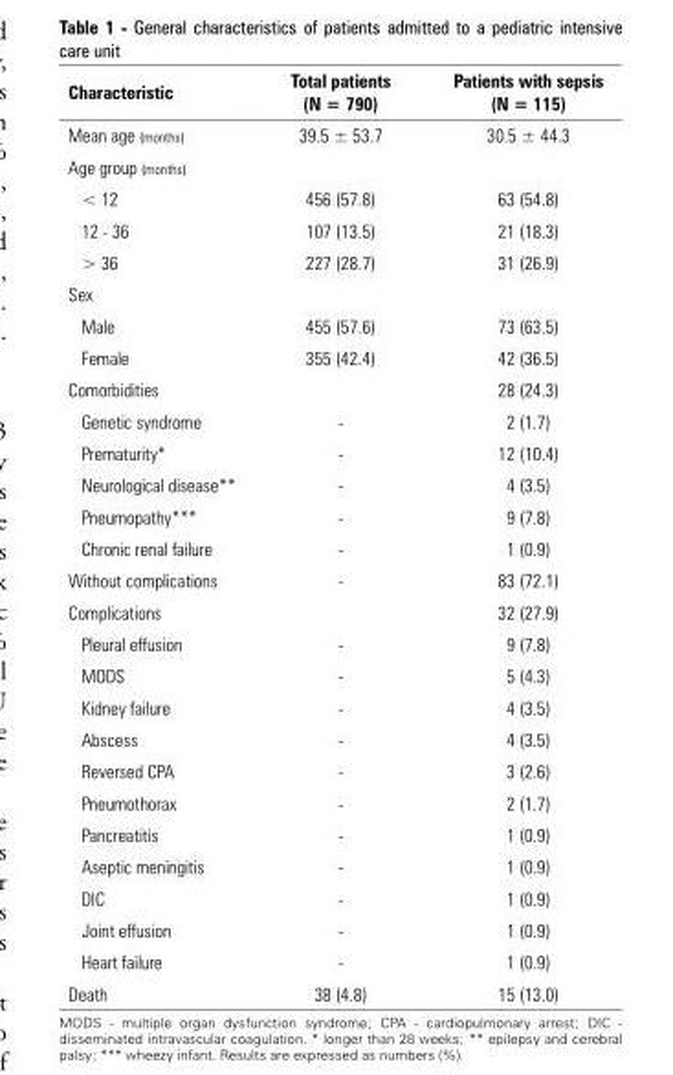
<table><thead><tr><td>Characteristic</td><td>Total patients (N = 790)</td><td>Patients with sepsis (N = 115)</td></tr></thead><tbody><tr><td>Mean age (months)</td><td>39.5 ± 53.7</td><td>30.5 ± 44.3</td></tr><tr><td colspan="3">Age group (months)</td></tr><tr><td>&lt; 12</td><td>456 (57.8)</td><td>63 (54.8)</td></tr><tr><td>12 - 36</td><td>107 (13.5)</td><td>21 (18.3)</td></tr><tr><td>&gt; 36</td><td>227 (28.7)</td><td>31 (26.9)</td></tr><tr><td colspan="3">Sex</td></tr><tr><td>Male</td><td>455 (57.6)</td><td>73 (63.5)</td></tr><tr><td>Female</td><td>355 (42.4)</td><td>42 (36.5)</td></tr><tr><td>Comorbidities</td><td></td><td>28 (24.3)</td></tr><tr><td>Genetic syndrome</td><td>-</td><td>2 (1.7)</td></tr><tr><td>Prematurity*</td><td>-</td><td>12 (10.4)</td></tr><tr><td>Neurological disease**</td><td>-</td><td>4 (3.5)</td></tr><tr><td>Pneumopathy***</td><td>-</td><td>9 (7.8)</td></tr><tr><td>Chronic renal failure</td><td>-</td><td>1 (0.9)</td></tr><tr><td>Without complications</td><td>-</td><td>83 (72.1)</td></tr><tr><td>Complications</td><td></td><td>32 (27.9)</td></tr><tr><td>Pleural effusion</td><td>-</td><td>9 (7.8)</td></tr><tr><td>MODS</td><td>-</td><td>5 (4.3)</td></tr><tr><td>Kidney failure</td><td>-</td><td>4 (3.5)</td></tr><tr><td>Abscess</td><td>-</td><td>4 (3.5)</td></tr><tr><td>Reversed CPA</td><td>-</td><td>3 (2.6)</td></tr><tr><td>Pneumothorax</td><td>-</td><td>2 (1.7)</td></tr><tr><td>Pancreatitis</td><td>-</td><td>1 (0.9)</td></tr><tr><td>Aseptic meningitis</td><td>-</td><td>1 (0.9)</td></tr><tr><td>DIC</td><td>-</td><td>1 (0.9)</td></tr><tr><td>Joint effusion</td><td>-</td><td>1 (0.9)</td></tr><tr><td>Heart failure</td><td>-</td><td>1 (0.9)</td></tr><tr><td>Death</td><td>38 (4.8)</td><td>15 (13.0)</td></tr></tbody></table>